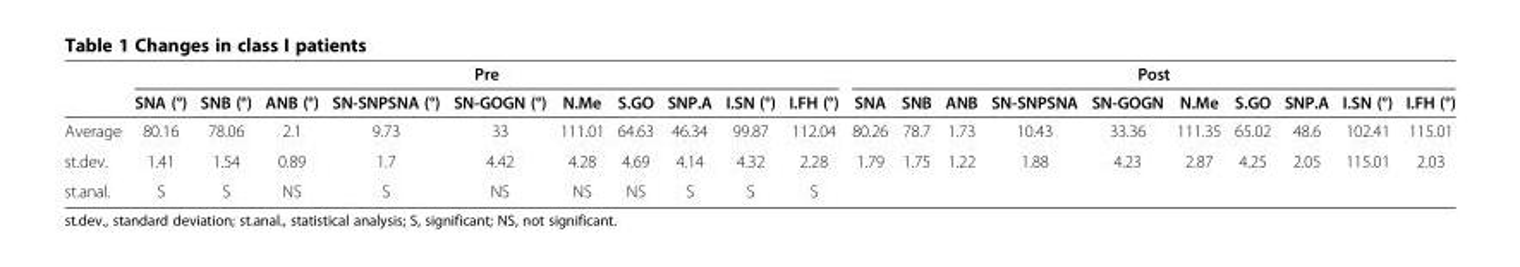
<table><thead><tr><td rowspan="2"></td><td colspan="10">Pre</td><td colspan="10">Post</td></tr><tr><td>SNA (°)</td><td>SNB (°)</td><td>ANB (°)</td><td>SN-SNPSNA (°)</td><td>SN-GOGN (°)</td><td>N.Me</td><td>S.GO</td><td>SNP.A</td><td>I.SN (°)</td><td>I.FH (°)</td><td>SNA</td><td>SNB</td><td>ANB</td><td>SN-SNPSNA</td><td>SN-GOGN</td><td>N.Me</td><td>S.GO</td><td>SNP.A</td><td>I.SN (°)</td><td>I.FH (°)</td></tr></thead><tbody><tr><td>Average</td><td>80.16</td><td>78.06</td><td>2.1</td><td>9.73</td><td>33</td><td>111.01</td><td>64.63</td><td>46.34</td><td>99.87</td><td>112.04</td><td>80.26</td><td>78.7</td><td>1.73</td><td>10.43</td><td>33.36</td><td>111.35</td><td>65.02</td><td>48.6</td><td>102.41</td><td>115.01</td></tr><tr><td>st.dev.</td><td>1.41</td><td>1.54</td><td>0.89</td><td>1.7</td><td>4.42</td><td>4.28</td><td>4.69</td><td>4.14</td><td>4.32</td><td>2.28</td><td>1.79</td><td>1.75</td><td>1.22</td><td>1.88</td><td>4.23</td><td>2.87</td><td>4.25</td><td>2.05</td><td>115.01</td><td>2.03</td></tr><tr><td>st.anal.</td><td>S</td><td>S</td><td>NS</td><td>S</td><td>NS</td><td>NS</td><td>NS</td><td>S</td><td>S</td><td>S</td><td></td><td></td><td></td><td></td><td></td><td></td><td></td><td></td><td></td><td></td></tr></tbody></table>